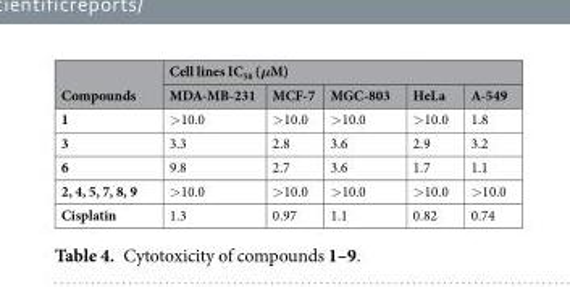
<table><thead><tr><td rowspan="2">Compounds</td><td colspan="5">Cell lines IC<sub>50</sub> (μM)</td></tr><tr><td>MDA-MB-231</td><td>MCF-7</td><td>MGC-803</td><td>HeLa</td><td>A-549</td></tr></thead><tbody><tr><td>1</td><td>&gt;10.0</td><td>&gt;10.0</td><td>&gt;10.0</td><td>&gt;10.0</td><td>1.8</td></tr><tr><td>3</td><td>3.3</td><td>2.8</td><td>3.6</td><td>2.9</td><td>3.2</td></tr><tr><td>6</td><td>9.8</td><td>2.7</td><td>3.6</td><td>1.7</td><td>1.1</td></tr><tr><td>2, 4, 5, 7, 8, 9</td><td>&gt;10.0</td><td>&gt;10.0</td><td>&gt;10.0</td><td>&gt;10.0</td><td>&gt;10.0</td></tr><tr><td>Cisplatin</td><td>1.3</td><td>0.97</td><td>1.1</td><td>0.82</td><td>0.74</td></tr></tbody></table>